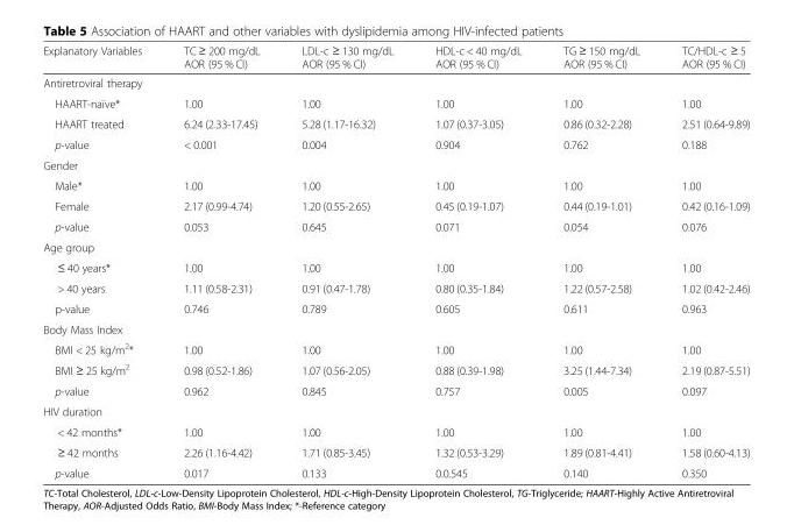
<table><thead><tr><td>Explanatory Variables</td><td>TC ≥ 200 mg/dL AOR (95 % CI)</td><td>LDL-c ≥ 130 mg/dL AOR (95 % CI)</td><td>HDL-c &lt; 40 mg/dL AOR (95 % CI)</td><td>TG ≥ 150 mg/dL AOR (95 % CI)</td><td>TC/HDL-c ≥ 5 AOR (95 % CI)</td></tr></thead><tbody><tr><td colspan="6">Antiretroviral therapy</td></tr><tr><td>HAART-naïve*</td><td>1.00</td><td>1.00</td><td>1.00</td><td>1.00</td><td>1.00</td></tr><tr><td>HAART treated</td><td>6.24 (2.33-17.45)</td><td>5.28 (1.17-16.32)</td><td>1.07 (0.37-3.05)</td><td>0.86 (0.32-2.28)</td><td>2.51 (0.64-9.89)</td></tr><tr><td>p-value</td><td>&lt; 0.001</td><td>0.004</td><td>0.904</td><td>0.762</td><td>0.188</td></tr><tr><td colspan="6">Gender</td></tr><tr><td>Male*</td><td>1.00</td><td>1.00</td><td>1.00</td><td>1.00</td><td>1.00</td></tr><tr><td>Female</td><td>2.17 (0.99-4.74)</td><td>1.20 (0.55-2.65)</td><td>0.45 (0.19-1.07)</td><td>0.44 (0.19-1.01)</td><td>0.42 (0.16-1.09)</td></tr><tr><td>p-value</td><td>0.053</td><td>0.645</td><td>0.071</td><td>0.054</td><td>0.076</td></tr><tr><td colspan="6">Age group</td></tr><tr><td>≤ 40 years*</td><td>1.00</td><td>1.00</td><td>1.00</td><td>1.00</td><td>1.00</td></tr><tr><td>&gt; 40 years</td><td>1.11 (0.58-2.31)</td><td>0.91 (0.47-1.78)</td><td>0.80 (0.35-1.84)</td><td>1.22 (0.57-2.58)</td><td>1.02 (0.42-2.46)</td></tr><tr><td>p-value</td><td>0.746</td><td>0.789</td><td>0.605</td><td>0.611</td><td>0.963</td></tr><tr><td colspan="6">Body Mass Index</td></tr><tr><td>BMI &lt; 25 kg/m<sup>2</sup>*</td><td>1.00</td><td>1.00</td><td>1.00</td><td>1.00</td><td>1.00</td></tr><tr><td>BMI ≥ 25 kg/m<sup>2</sup></td><td>0.98 (0.52-1.86)</td><td>1.07 (0.56-2.05)</td><td>0.88 (0.39-1.98)</td><td>3.25 (1.44-7.34)</td><td>2.19 (0.87-5.51)</td></tr><tr><td>p-value</td><td>0.962</td><td>0.845</td><td>0.757</td><td>0.005</td><td>0.097</td></tr><tr><td colspan="6">HIV duration</td></tr><tr><td>&lt; 42 months*</td><td>1.00</td><td>1.00</td><td>1.00</td><td>1.00</td><td>1.00</td></tr><tr><td>≥ 42 months</td><td>2.26 (1.16-4.42)</td><td>1.71 (0.85-3.45)</td><td>1.32 (0.53-3.29)</td><td>1.89 (0.81-4.41)</td><td>1.58 (0.60-4.13)</td></tr><tr><td>p-value</td><td>0.017</td><td>0.133</td><td>0.0.545</td><td>0.140</td><td>0.350</td></tr></tbody></table>